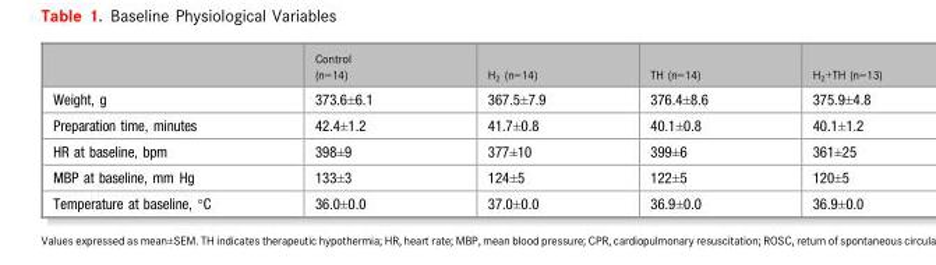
<table><thead><tr><td></td><td>Control (n=14)</td><td>H<sub>2</sub> (n=14)</td><td>TH (n=14)</td><td>H<sub>2</sub>+TH (n=13)</td></tr></thead><tbody><tr><td>Weight, g</td><td>373.6±6.1</td><td>367.5±7.9</td><td>376.4±8.6</td><td>375.9±4.8</td></tr><tr><td>Preparation time, minutes</td><td>42.4±1.2</td><td>41.7±0.8</td><td>40.1±0.8</td><td>40.1±1.2</td></tr><tr><td>HR at baseline, bpm</td><td>398±9</td><td>377±10</td><td>399±6</td><td>361±25</td></tr><tr><td>MBP at baseline, mm Hg</td><td>133±3</td><td>124±5</td><td>122±5</td><td>120±5</td></tr><tr><td>Temperature at baseline, °C</td><td>36.0±0.0</td><td>37.0±0.0</td><td>36.9±0.0</td><td>36.9±0.0</td></tr></tbody></table>